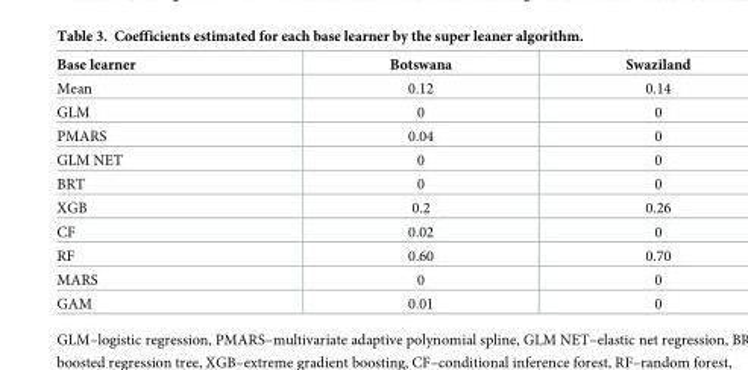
<table><thead><tr><td>Base learner</td><td>Botswana</td><td>Swaziland</td></tr></thead><tbody><tr><td>Mean</td><td>0.12</td><td>0.14</td></tr><tr><td>GLM</td><td>0</td><td>0</td></tr><tr><td>PMARS</td><td>0.04</td><td>0</td></tr><tr><td>GLM NET</td><td>0</td><td>0</td></tr><tr><td>BRT</td><td>0</td><td>0</td></tr><tr><td>XGB</td><td>0.2</td><td>0.26</td></tr><tr><td>CF</td><td>0.02</td><td>0</td></tr><tr><td>RF</td><td>0.60</td><td>0.70</td></tr><tr><td>MARS</td><td>0</td><td>0</td></tr><tr><td>GAM</td><td>0.01</td><td>0</td></tr></tbody></table>